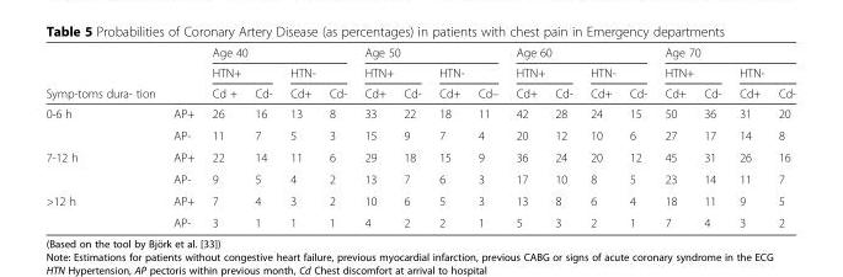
<table><thead><tr><td rowspan="3">Symp-toms dura- tion</td><td rowspan="3"></td><td colspan="4">Age 40</td><td colspan="4">Age 50</td><td colspan="4">Age 60</td><td colspan="4">Age 70</td></tr><tr><td colspan="2">HTN+</td><td colspan="2">HTN-</td><td colspan="2">HTN+</td><td colspan="2">HTN-</td><td colspan="2">HTN+</td><td colspan="2">HTN-</td><td colspan="2">HTN+</td><td colspan="2">HTN-</td></tr><tr><td>Cd +</td><td>Cd-</td><td>Cd+</td><td>Cd-</td><td>Cd+</td><td>Cd-</td><td>Cd+</td><td>Cd–</td><td>Cd+</td><td>Cd-</td><td>Cd+</td><td>Cd-</td><td>Cd+</td><td>Cd-</td><td>Cd+</td><td>Cd-</td></tr></thead><tbody><tr><td rowspan="2">0-6 h</td><td>AP+</td><td>26</td><td>16</td><td>13</td><td>8</td><td>33</td><td>22</td><td>18</td><td>11</td><td>42</td><td>28</td><td>24</td><td>15</td><td>50</td><td>36</td><td>31</td><td>20</td></tr><tr><td>AP-</td><td>11</td><td>7</td><td>5</td><td>3</td><td>15</td><td>9</td><td>7</td><td>4</td><td>20</td><td>12</td><td>10</td><td>6</td><td>27</td><td>17</td><td>14</td><td>8</td></tr><tr><td rowspan="2">7-12 h</td><td>AP+</td><td>22</td><td>14</td><td>11</td><td>6</td><td>29</td><td>18</td><td>15</td><td>9</td><td>36</td><td>24</td><td>20</td><td>12</td><td>45</td><td>31</td><td>26</td><td>16</td></tr><tr><td>AP-</td><td>9</td><td>5</td><td>4</td><td>2</td><td>13</td><td>7</td><td>6</td><td>3</td><td>17</td><td>10</td><td>8</td><td>5</td><td>23</td><td>14</td><td>11</td><td>7</td></tr><tr><td rowspan="2">&gt;12 h</td><td>AP+</td><td>7</td><td>4</td><td>3</td><td>2</td><td>10</td><td>6</td><td>5</td><td>3</td><td>13</td><td>8</td><td>6</td><td>4</td><td>18</td><td>11</td><td>9</td><td>5</td></tr><tr><td>AP-</td><td>3</td><td>1</td><td>1</td><td>1</td><td>4</td><td>2</td><td>2</td><td>1</td><td>5</td><td>3</td><td>2</td><td>1</td><td>7</td><td>4</td><td>3</td><td>2</td></tr></tbody></table>